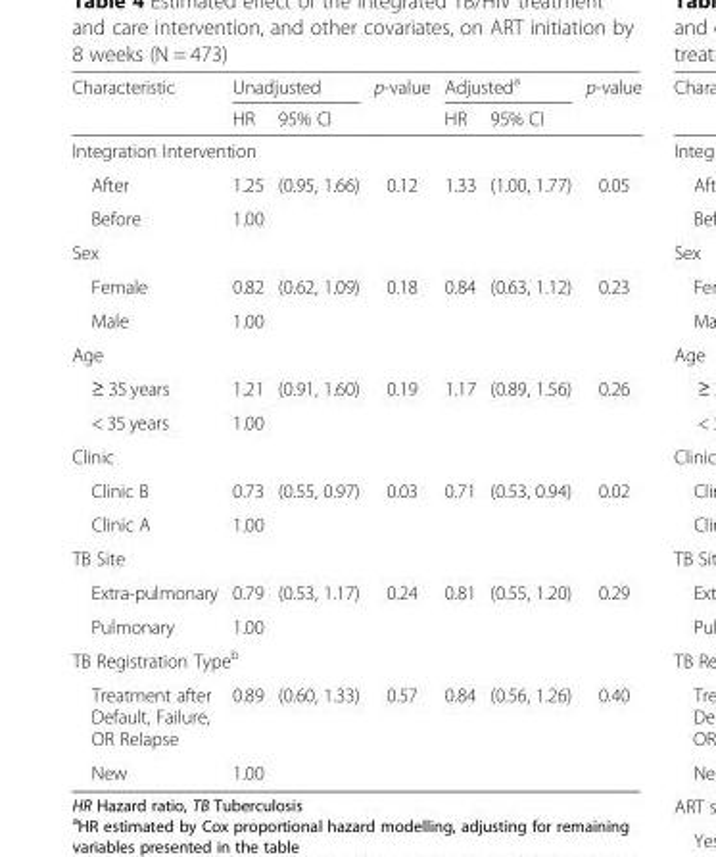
<table><thead><tr><td rowspan="2">Characteristic</td><td colspan="2">Unadjusted</td><td rowspan="2">p-value</td><td colspan="2">Adjusted<sup>a</sup></td><td rowspan="2">p-value</td></tr><tr><td>HR</td><td>95% CI</td><td>HR</td><td>95% CI</td></tr></thead><tbody><tr><td colspan="7">Integration Intervention</td></tr><tr><td>After</td><td>1.25</td><td>(0.95, 1.66)</td><td>0.12</td><td>1.33</td><td>(1.00, 1.77)</td><td>0.05</td></tr><tr><td>Before</td><td>1.00</td><td></td><td></td><td></td><td></td><td></td></tr><tr><td colspan="7">Sex</td></tr><tr><td>Female</td><td>0.82</td><td>(0.62, 1.09)</td><td>0.18</td><td>0.84</td><td>(0.63, 1.12)</td><td>0.23</td></tr><tr><td>Male</td><td>1.00</td><td></td><td></td><td></td><td></td><td></td></tr><tr><td colspan="7">Age</td></tr><tr><td>≥ 35 years</td><td>1.21</td><td>(0.91, 1.60)</td><td>0.19</td><td>1.17</td><td>(0.89, 1.56)</td><td>0.26</td></tr><tr><td>&lt; 35 years</td><td>1.00</td><td></td><td></td><td></td><td></td><td></td></tr><tr><td colspan="7">Clinic</td></tr><tr><td>Clinic B</td><td>0.73</td><td>(0.55, 0.97)</td><td>0.03</td><td>0.71</td><td>(0.53, 0.94)</td><td>0.02</td></tr><tr><td>Clinic A</td><td>1.00</td><td></td><td></td><td></td><td></td><td></td></tr><tr><td colspan="7">TB Site</td></tr><tr><td>Extra-pulmonary</td><td>0.79</td><td>(0.53, 1.17)</td><td>0.24</td><td>0.81</td><td>(0.55, 1.20)</td><td>0.29</td></tr><tr><td>Pulmonary</td><td>1.00</td><td></td><td></td><td></td><td></td><td></td></tr><tr><td colspan="7">TB Registration Type<sup>b</sup></td></tr><tr><td>Treatment after Default, Failure, OR Relapse</td><td>0.89</td><td>(0.60, 1.33)</td><td>0.57</td><td>0.84</td><td>(0.56, 1.26)</td><td>0.40</td></tr><tr><td>New</td><td>1.00</td><td></td><td></td><td></td><td></td><td></td></tr></tbody></table>